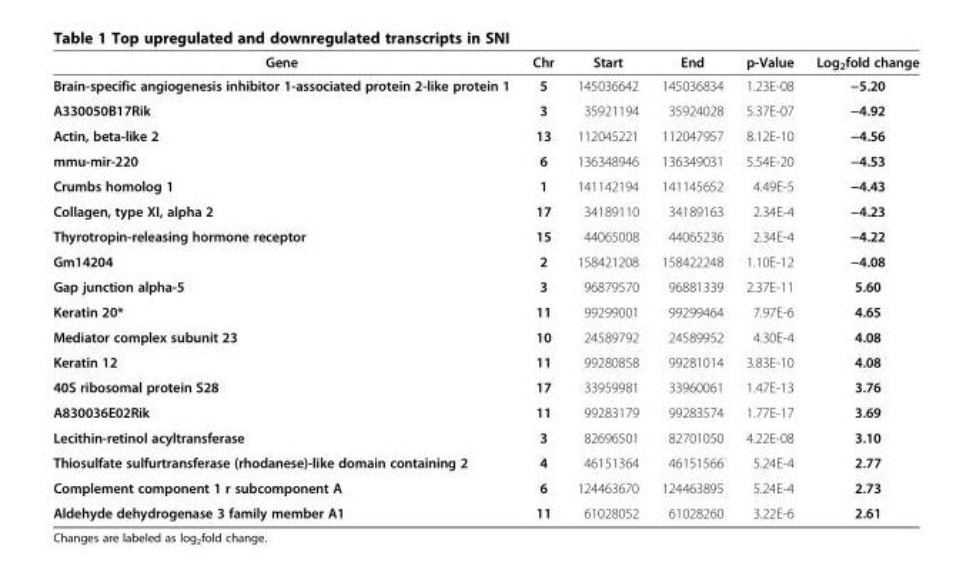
<table><thead><tr><td>Gene</td><td>Chr</td><td>Start</td><td>End</td><td>p-Value</td><td>Log<sub>2</sub>fold change</td></tr></thead><tbody><tr><td>Brain-specific angiogenesis inhibitor 1-associated protein 2-like protein 1</td><td>5</td><td>145036642</td><td>145036834</td><td>1.23E-08</td><td>−5.20</td></tr><tr><td>A330050B17Rik</td><td>3</td><td>35921194</td><td>35924028</td><td>5.37E-07</td><td>−4.92</td></tr><tr><td>Actin, beta-like 2</td><td>13</td><td>112045221</td><td>112047957</td><td>8.12E-10</td><td>−4.56</td></tr><tr><td>mmu-mir-220</td><td>6</td><td>136348946</td><td>136349031</td><td>5.54E-20</td><td>−4.53</td></tr><tr><td>Crumbs homolog 1</td><td>1</td><td>141142194</td><td>141145652</td><td>4.49E-5</td><td>−4.43</td></tr><tr><td>Collagen, type XI, alpha 2</td><td>17</td><td>34189110</td><td>34189163</td><td>2.34E-4</td><td>−4.23</td></tr><tr><td>Thyrotropin-releasing hormone receptor</td><td>15</td><td>44065008</td><td>44065236</td><td>2.34E-4</td><td>−4.22</td></tr><tr><td>Gm14204</td><td>2</td><td>158421208</td><td>158422248</td><td>1.10E-12</td><td>−4.08</td></tr><tr><td>Gap junction alpha-5</td><td>3</td><td>96879570</td><td>96881339</td><td>2.37E-11</td><td>5.60</td></tr><tr><td>Keratin 20*</td><td>11</td><td>99299001</td><td>99299464</td><td>7.97E-6</td><td>4.65</td></tr><tr><td>Mediator complex subunit 23</td><td>10</td><td>24589792</td><td>24589952</td><td>4.30E-4</td><td>4.08</td></tr><tr><td>Keratin 12</td><td>11</td><td>99280858</td><td>99281014</td><td>3.83E-10</td><td>4.08</td></tr><tr><td>40S ribosomal protein S28</td><td>17</td><td>33959981</td><td>33960061</td><td>1.47E-13</td><td>3.76</td></tr><tr><td>A830036E02Rik</td><td>11</td><td>99283179</td><td>99283574</td><td>1.77E-17</td><td>3.69</td></tr><tr><td>Lecithin-retinol acyltransferase</td><td>3</td><td>82696501</td><td>82701050</td><td>4.22E-08</td><td>3.10</td></tr><tr><td>Thiosulfate sulfurtransferase (rhodanese)-like domain containing 2</td><td>4</td><td>46151364</td><td>46151566</td><td>5.24E-4</td><td>2.77</td></tr><tr><td>Complement component 1 r subcomponent A</td><td>6</td><td>124463670</td><td>124463895</td><td>5.24E-4</td><td>2.73</td></tr><tr><td>Aldehyde dehydrogenase 3 family member A1</td><td>11</td><td>61028052</td><td>61028260</td><td>3.22E-6</td><td>2.61</td></tr></tbody></table>